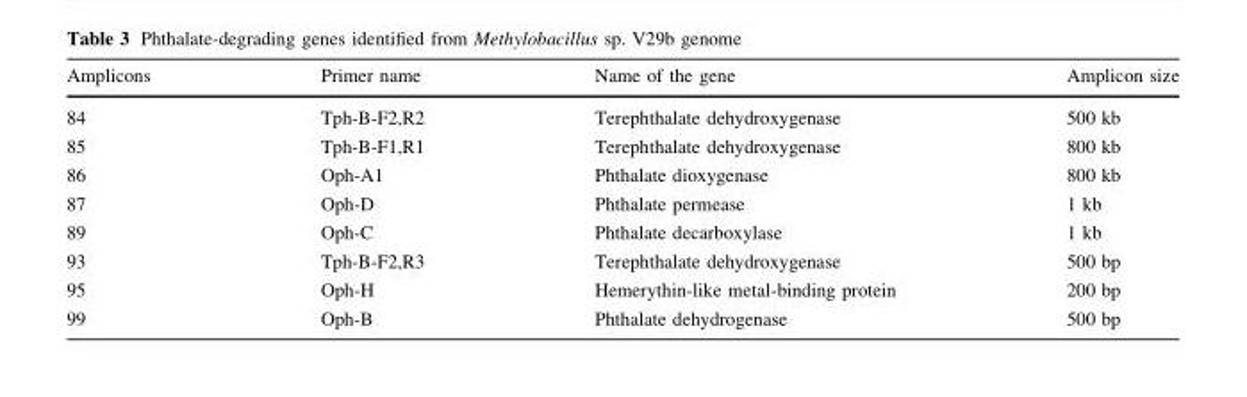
<table><thead><tr><td>Amplicons</td><td>Primer name</td><td>Name of the gene</td><td>Amplicon size</td></tr></thead><tbody><tr><td>84</td><td>Tph-B-F2,R2</td><td>Terephthalate dehydroxygenase</td><td>500 kb</td></tr><tr><td>85</td><td>Tph-B-F1,R1</td><td>Terephthalate dehydroxygenase</td><td>800 kb</td></tr><tr><td>86</td><td>Oph-A1</td><td>Phthalate dioxygenase</td><td>800 kb</td></tr><tr><td>87</td><td>Oph-D</td><td>Phthalate permease</td><td>1 kb</td></tr><tr><td>89</td><td>Oph-C</td><td>Phthalate decarboxylase</td><td>1 kb</td></tr><tr><td>93</td><td>Tph-B-F2,R3</td><td>Terephthalate dehydroxygenase</td><td>500 bp</td></tr><tr><td>95</td><td>Oph-H</td><td>Hemerythin-like metal-binding protein</td><td>200 bp</td></tr><tr><td>99</td><td>Oph-B</td><td>Phthalate dehydrogenase</td><td>500 bp</td></tr></tbody></table>